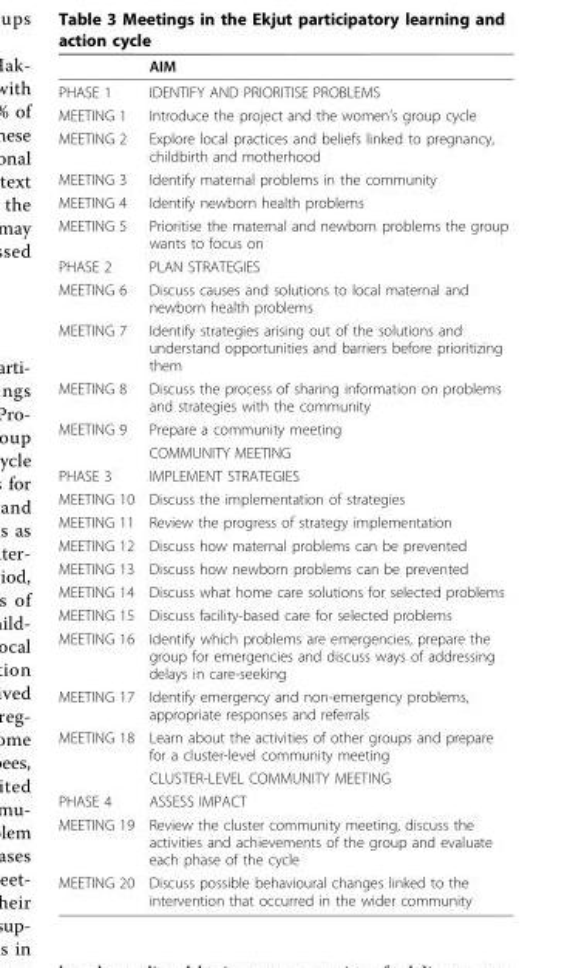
<table><thead><tr><td></td><td>AIM</td></tr></thead><tbody><tr><td>PHASE 1</td><td>IDENTIFY AND PRIORITISE PROBLEMS</td></tr><tr><td>MEETING 1</td><td>Introduce the project and the women’s group cycle</td></tr><tr><td>MEETING 2</td><td>Explore local practices and beliefs linked to pregnancy, childbirth and motherhood</td></tr><tr><td>MEETING 3</td><td>Identify maternal problems in the community</td></tr><tr><td>MEETING 4</td><td>Identify newborn health problems</td></tr><tr><td>MEETING 5</td><td>Prioritise the maternal and newborn problems the group wants to focus on</td></tr><tr><td>PHASE 2</td><td>PLAN STRATEGIES</td></tr><tr><td>MEETING 6</td><td>Discuss causes and solutions to local maternal and newborn health problems</td></tr><tr><td>MEETING 7</td><td>Identify strategies arising out of the solutions and understand opportunities and barriers before prioritizing them</td></tr><tr><td>MEETING 8</td><td>Discuss the process of sharing information on problems and strategies with the community</td></tr><tr><td rowspan="2">MEETING 9</td><td>Prepare a community meeting</td></tr><tr><td>COMMUNITY MEETING</td></tr><tr><td>PHASE 3</td><td>IMPLEMENT STRATEGIES</td></tr><tr><td>MEETING 10</td><td>Discuss the implementation of strategies</td></tr><tr><td>MEETING 11</td><td>Review the progress of strategy implementation</td></tr><tr><td>MEETING 12</td><td>Discuss how maternal problems can be prevented</td></tr><tr><td>MEETING 13</td><td>Discuss how newborn problems can be prevented</td></tr><tr><td>MEETING 14</td><td>Discuss what home care solutions for selected problems</td></tr><tr><td>MEETING 15</td><td>Discuss facility-based care for selected problems</td></tr><tr><td>MEETING 16</td><td>Identify which problems are emergencies, prepare the group for emergencies and discuss ways of addressing delays in care-seeking</td></tr><tr><td>MEETING 17</td><td>Identify emergency and non-emergency problems, appropriate responses and referrals</td></tr><tr><td rowspan="2">MEETING 18</td><td>Learn about the activities of other groups and prepare for a cluster-level community meeting</td></tr><tr><td>CLUSTER-LEVEL COMMUNITY MEETING</td></tr><tr><td>PHASE 4</td><td>ASSESS IMPACT</td></tr><tr><td>MEETING 19</td><td>Review the cluster community meeting, discuss the activities and achievements of the group and evaluate each phase of the cycle</td></tr><tr><td>MEETING 20</td><td>Discuss possible behavioural changes linked to the intervention that occurred in the wider community</td></tr></tbody></table>